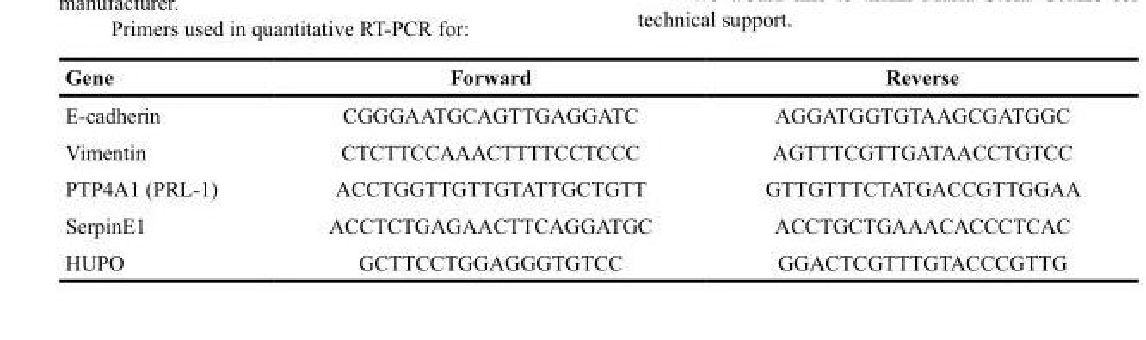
<table><thead><tr><td>Gene</td><td>Forward</td><td>Reverse</td></tr></thead><tbody><tr><td>E-cadherin</td><td>CGGGAATGCAGTTGAGGATC</td><td>AGGATGGTGTAAGCGATGGC</td></tr><tr><td>Vimentin</td><td>CTCTTCCAAACTTTTCCTCCC</td><td>AGTTTCGTTGATAACCTGTCC</td></tr><tr><td>PTP4A1 (PRL-1)</td><td>ACCTGGTTGTTGTATTGCTGTT</td><td>GTTGTTTCTATGACCGTTGGAA</td></tr><tr><td>SerpinE1</td><td>ACCTCTGAGAACTTCAGGATGC</td><td>ACCTGCTGAAACACCCTCAC</td></tr><tr><td>HUPO</td><td>GCTTCCTGGAGGGTGTCC</td><td>GGACTCGTTTGTACCCGTTG</td></tr></tbody></table>